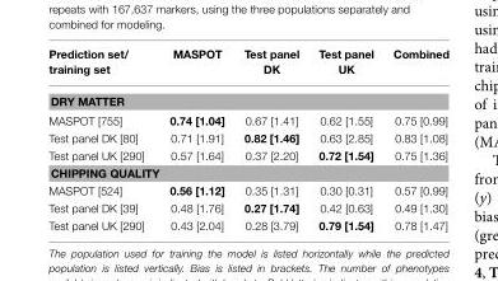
<table><thead><tr><td>Prediction set/ training set</td><td>MASPOT</td><td>Test panel DK</td><td>Test panel UK</td><td>Combined</td></tr></thead><tbody><tr><td colspan="5">DRY MATTER</td></tr><tr><td>MASPOT [755]</td><td>0.74 [1.04]</td><td>0.67 [1.41]</td><td>0.62 [1.55]</td><td>0.75 [0.99]</td></tr><tr><td>Test panel DK [80]</td><td>0.71 [1.91]</td><td>0.82 [1.46]</td><td>0.63 [2.85]</td><td>0.83 [1.08]</td></tr><tr><td>Test panel UK [290]</td><td>0.57 [1.64]</td><td>0.37 [2.20]</td><td>0.72 [1.54]</td><td>0.75 [1.36]</td></tr><tr><td colspan="5">CHIPPING QUALITY</td></tr><tr><td>MASPOT [524]</td><td>0.56 [1.12]</td><td>0.35 [1.31]</td><td>0.30 [0.31]</td><td>0.57 [0.99]</td></tr><tr><td>Test panel DK [39]</td><td>0.48 [1.76]</td><td>0.27 [1.74]</td><td>0.42 [0.63]</td><td>0.49 [1.30]</td></tr><tr><td>Test panel UK [290]</td><td>0.43 [2.04]</td><td>0.28 [3.79]</td><td>0.79 [1.54]</td><td>0.78 [1.47]</td></tr></tbody></table>